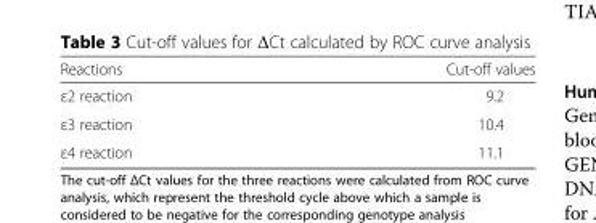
<table><thead><tr><td>Reactions</td><td>Cut-off values</td></tr></thead><tbody><tr><td>ε2 reaction</td><td>9.2</td></tr><tr><td>ε3 reaction</td><td>10.4</td></tr><tr><td>ε4 reaction</td><td>11.1</td></tr></tbody></table>